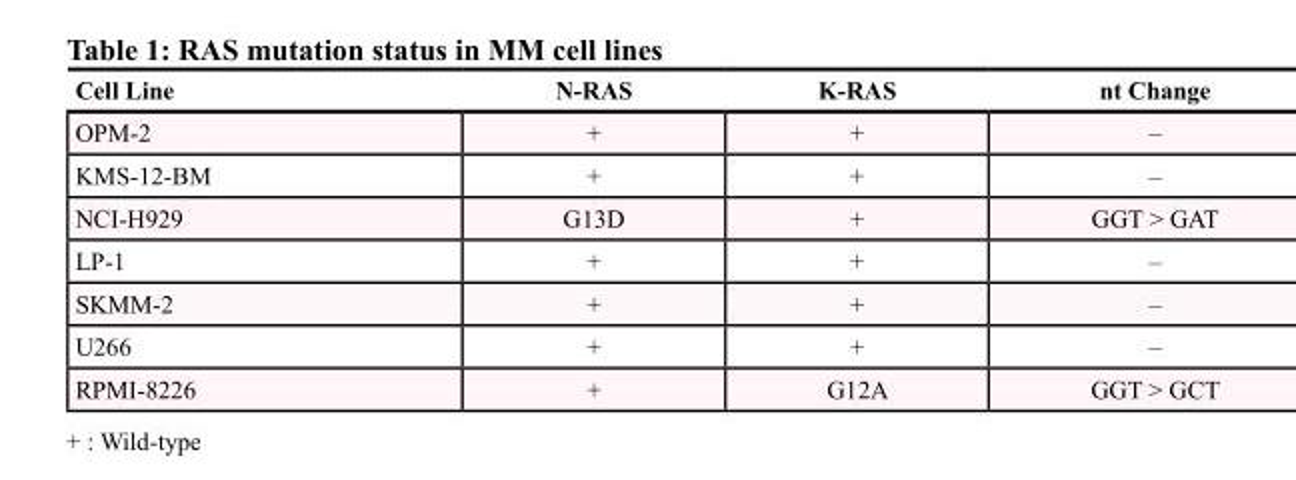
<table><thead><tr><td>Cell Line</td><td>N-RAS</td><td>K-RAS</td><td>nt Change</td></tr></thead><tbody><tr><td>OPM-2</td><td>+</td><td>+</td><td>–</td></tr><tr><td>KMS-12-BM</td><td>+</td><td>+</td><td>–</td></tr><tr><td>NCI-H929</td><td>G13D</td><td>+</td><td>GGT &gt; GAT</td></tr><tr><td>LP-1</td><td>+</td><td>+</td><td>–</td></tr><tr><td>SKMM-2</td><td>+</td><td>+</td><td>–</td></tr><tr><td>U266</td><td>+</td><td>+</td><td>–</td></tr><tr><td>RPMI-8226</td><td>+</td><td>G12A</td><td>GGT &gt; GCT</td></tr></tbody></table>